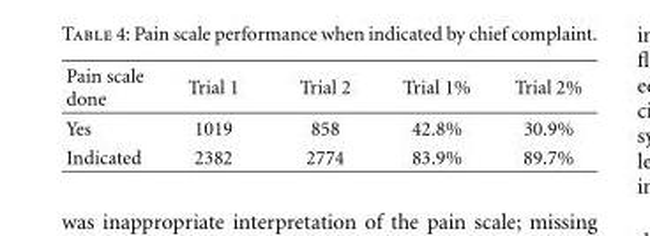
<table><thead><tr><td>Pain scale done</td><td>Trial 1</td><td>Trial 2</td><td>Trial 1%</td><td>Trial 2%</td></tr></thead><tbody><tr><td>Yes</td><td>1019</td><td>858</td><td>42.8%</td><td>30.9%</td></tr><tr><td>Indicated</td><td>2382</td><td>2774</td><td>83.9%</td><td>89.7%</td></tr></tbody></table>